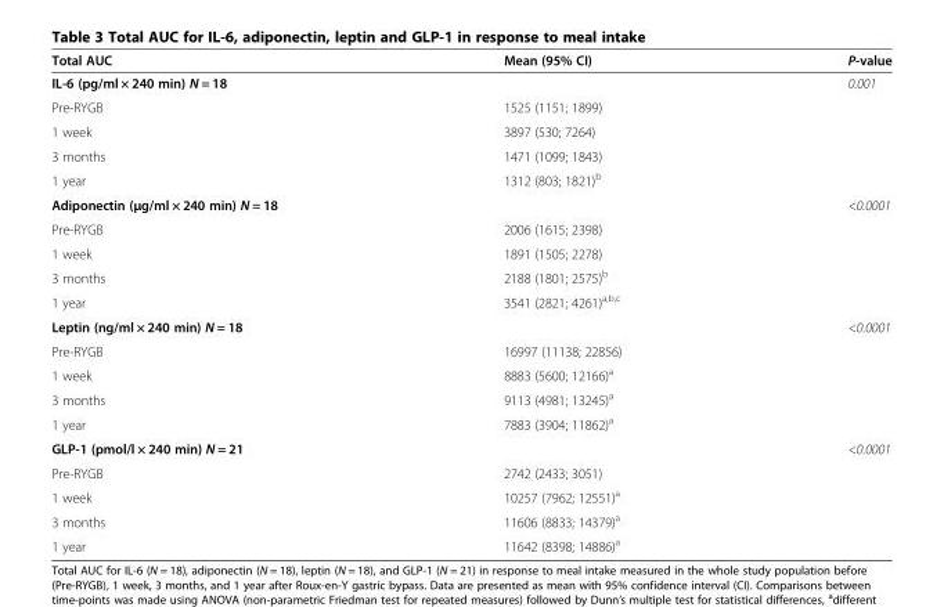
<table><thead><tr><td>Total AUC</td><td>Mean (95% CI)</td><td>P-value</td></tr></thead><tbody><tr><td>IL-6 (pg/ml × 240 min) N = 18</td><td></td><td>0.001</td></tr><tr><td>Pre-RYGB</td><td>1525 (1151; 1899)</td><td></td></tr><tr><td>1 week</td><td>3897 (530; 7264)</td><td></td></tr><tr><td>3 months</td><td>1471 (1099; 1843)</td><td></td></tr><tr><td>1 year</td><td>1312 (803; 1821)<sup>b</sup></td><td></td></tr><tr><td>Adiponectin (μg/ml × 240 min) N = 18</td><td></td><td>&lt;0.0001</td></tr><tr><td>Pre-RYGB</td><td>2006 (1615; 2398)</td><td></td></tr><tr><td>1 week</td><td>1891 (1505; 2278)</td><td></td></tr><tr><td>3 months</td><td>2188 (1801; 2575)<sup>b</sup></td><td></td></tr><tr><td>1 year</td><td>3541 (2821; 4261)<sup>a,b,c</sup></td><td></td></tr><tr><td>Leptin (ng/ml × 240 min) N = 18</td><td></td><td>&lt;0.0001</td></tr><tr><td>Pre-RYGB</td><td>16997 (11138; 22856)</td><td></td></tr><tr><td>1 week</td><td>8883 (5600; 12166)<sup>a</sup></td><td></td></tr><tr><td>3 months</td><td>9113 (4981; 13245)<sup>a</sup></td><td></td></tr><tr><td>1 year</td><td>7883 (3904; 11862)<sup>a</sup></td><td></td></tr><tr><td>GLP-1 (pmol/l × 240 min) N = 21</td><td></td><td>&lt;0.0001</td></tr><tr><td>Pre-RYGB</td><td>2742 (2433; 3051)</td><td></td></tr><tr><td>1 week</td><td>10257 (7962; 12551)<sup>a</sup></td><td></td></tr><tr><td>3 months</td><td>11606 (8833; 14379)<sup>a</sup></td><td></td></tr><tr><td>1 year</td><td>11642 (8398; 14886)<sup>a</sup></td><td></td></tr></tbody></table>